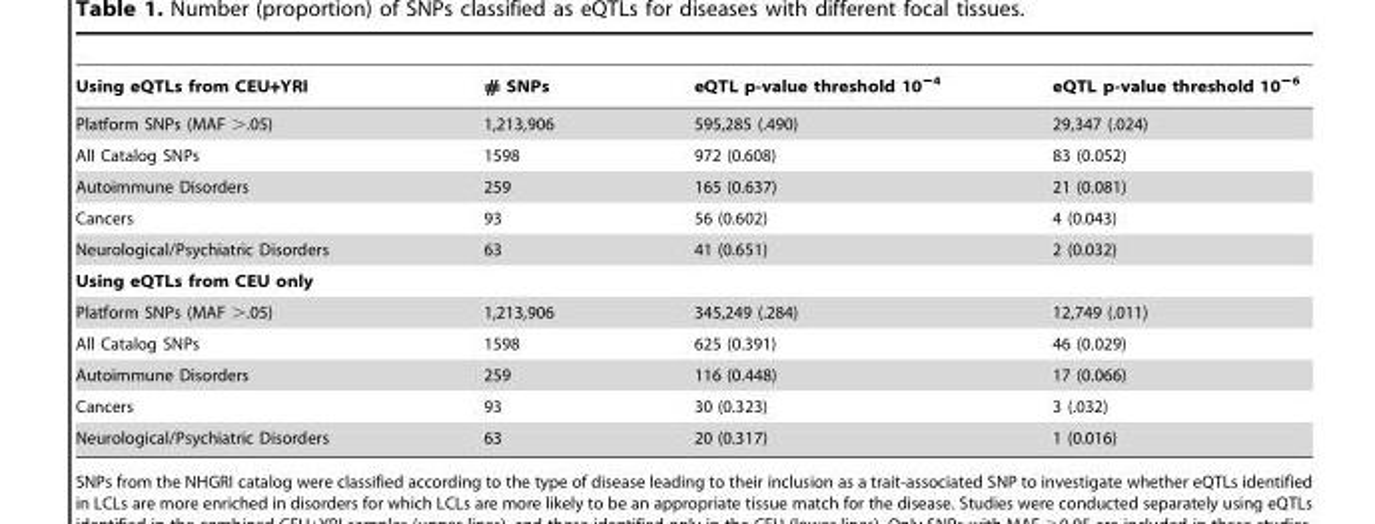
<table><thead><tr><td>Using eQTLs from CEU+YRI</td><td># SNPs</td><td>eQTL p-value threshold 10<sup>−4</sup></td><td>eQTL p-value threshold 10<sup>−6</sup></td></tr></thead><tbody><tr><td>Platform SNPs (MAF &gt;.05)</td><td>1,213,906</td><td>595,285 (.490)</td><td>29,347 (.024)</td></tr><tr><td>All Catalog SNPs</td><td>1598</td><td>972 (0.608)</td><td>83 (0.052)</td></tr><tr><td>Autoimmune Disorders</td><td>259</td><td>165 (0.637)</td><td>21 (0.081)</td></tr><tr><td>Cancers</td><td>93</td><td>56 (0.602)</td><td>4 (0.043)</td></tr><tr><td>Neurological/Psychiatric Disorders</td><td>63</td><td>41 (0.651)</td><td>2 (0.032)</td></tr><tr><td colspan="4">Using eQTLs from CEU only</td></tr><tr><td>Platform SNPs (MAF &gt;.05)</td><td>1,213,906</td><td>345,249 (.284)</td><td>12,749 (.011)</td></tr><tr><td>All Catalog SNPs</td><td>1598</td><td>625 (0.391)</td><td>46 (0.029)</td></tr><tr><td>Autoimmune Disorders</td><td>259</td><td>116 (0.448)</td><td>17 (0.066)</td></tr><tr><td>Cancers</td><td>93</td><td>30 (0.323)</td><td>3 (.032)</td></tr><tr><td>Neurological/Psychiatric Disorders</td><td>63</td><td>20 (0.317)</td><td>1 (0.016)</td></tr></tbody></table>